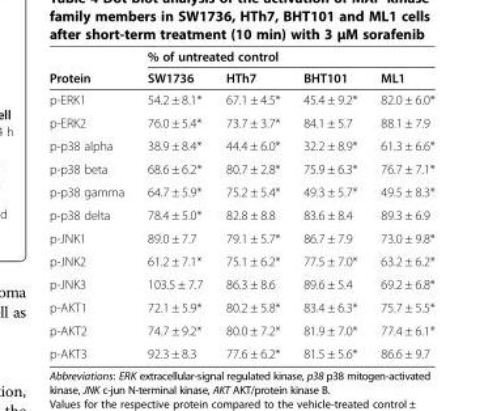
<table><thead><tr><td rowspan="2">Protein</td><td colspan="4">% of untreated control</td></tr><tr><td>SW1736</td><td>HTh7</td><td>BHT101</td><td>ML1</td></tr></thead><tbody><tr><td>p-ERK1</td><td>54.2 ± 8.1*</td><td>67.1 ± 4.5*</td><td>45.4 ± 9.2*</td><td>82.0 ± 6.0*</td></tr><tr><td>p-ERK2</td><td>76.0 ± 5.4*</td><td>73.7 ± 3.7*</td><td>84.1 ± 5.7</td><td>88.1 ± 7.9</td></tr><tr><td>p-p38 alpha</td><td>38.9 ± 8.4*</td><td>44.4 ± 6.0*</td><td>32.2 ± 8.9*</td><td>61.3 ± 6.6*</td></tr><tr><td>p-p38 beta</td><td>68.6 ± 6.2*</td><td>80.7 ± 2.8*</td><td>75.9 ± 6.3*</td><td>76.7 ± 7.1*</td></tr><tr><td>p-p38 gamma</td><td>64.7 ± 5.9*</td><td>75.2 ± 5.4*</td><td>49.3 ± 5.7*</td><td>49.5 ± 8.3*</td></tr><tr><td>p-p38 delta</td><td>78.4 ± 5.0*</td><td>82.8 ± 8.8</td><td>83.6 ± 8.4</td><td>89.3 ± 6.9</td></tr><tr><td>p-JNK1</td><td>89.0 ± 7.7</td><td>79.1 ± 5.7*</td><td>86.7 ± 7.9</td><td>73.0 ± 9.8*</td></tr><tr><td>p-JNK2</td><td>61.2 ± 7.1*</td><td>75.1 ± 6.2*</td><td>77.5 ± 7.0*</td><td>63.2 ± 6.2*</td></tr><tr><td>p-JNK3</td><td>103.5 ± 7.7</td><td>86.3 ± 8.6</td><td>89.6 ± 5.4</td><td>69.2 ± 6.8*</td></tr><tr><td>p-AKT1</td><td>72.1 ± 5.9*</td><td>80.2 ± 5.8*</td><td>83.4 ± 6.3*</td><td>75.7 ± 5.5*</td></tr><tr><td>p-AKT2</td><td>74.7 ± 9.2*</td><td>80.0 ± 7.2*</td><td>81.9 ± 7.0*</td><td>77.4 ± 6.1*</td></tr><tr><td>p-AKT3</td><td>92.3 ± 8.3</td><td>77.6 ± 6.2*</td><td>81.5 ± 5.6*</td><td>86.6 ± 9.7</td></tr></tbody></table>